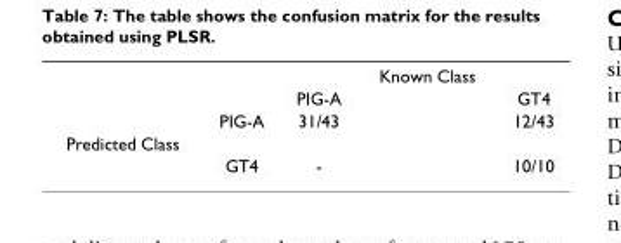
<table><thead><tr><td></td><td></td><td></td><td>Known Class</td><td></td></tr></thead><tbody><tr><td></td><td></td><td>PIG-A</td><td></td><td>GT4</td></tr><tr><td></td><td>PIG-A</td><td>31/43</td><td></td><td>12/43</td></tr><tr><td colspan="5">Predicted Class</td></tr><tr><td></td><td>GT4</td><td>-</td><td></td><td>10/10</td></tr></tbody></table>